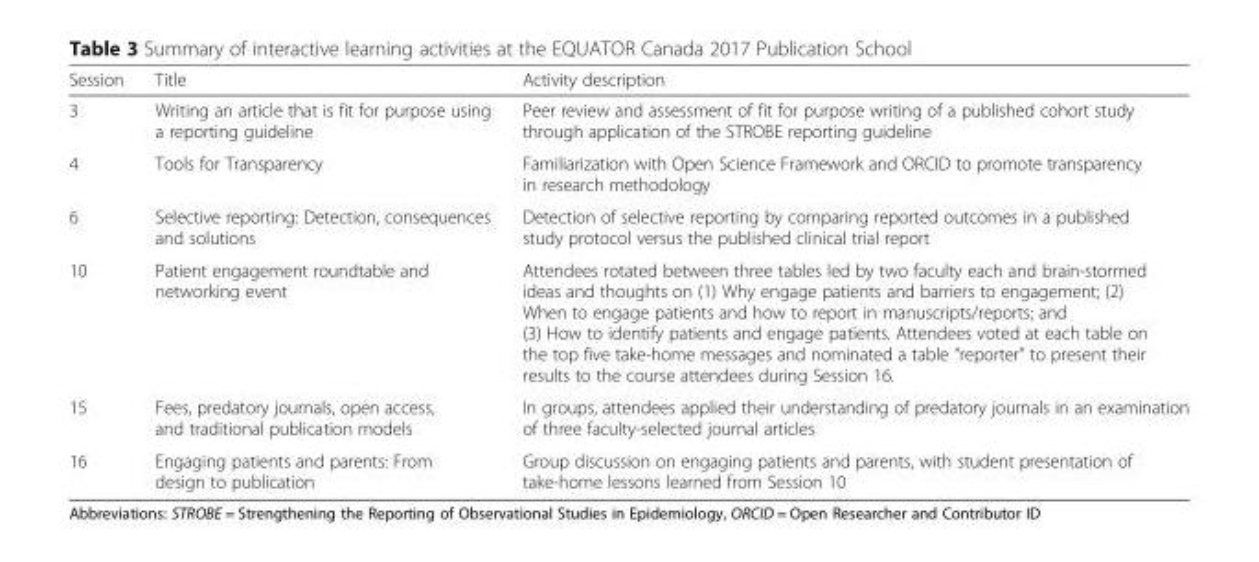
<table><thead><tr><td>Session</td><td>Title</td><td>Activity description</td></tr></thead><tbody><tr><td>3</td><td>Writing an article that is fit for purpose using a reporting guideline</td><td>Peer review and assessment of fit for purpose writing of a published cohort study through application of the STROBE reporting guideline</td></tr><tr><td>4</td><td>Tools for Transparency</td><td>Familiarization with Open Science Framework and ORCID to promote transparency in research methodology</td></tr><tr><td>6</td><td>Selective reporting: Detection, consequences and solutions</td><td>Detection of selective reporting by comparing reported outcomes in a published study protocol versus the published clinical trial report</td></tr><tr><td>10</td><td>Patient engagement roundtable and networking event</td><td>Attendees rotated between three tables led by two faculty each and brain-stormed ideas and thoughts on (1) Why engage patients and barriers to engagement; (2) When to engage patients and how to report in manuscripts/reports; and (3) How to identify patients and engage patients. Attendees voted at each table on the top five take-home messages and nominated a table “reporter” to present their results to the course attendees during Session 16.</td></tr><tr><td>15</td><td>Fees, predatory journals, open access, and traditional publication models</td><td>In groups, attendees applied their understanding of predatory journals in an examination of three faculty-selected journal articles</td></tr><tr><td>16</td><td>Engaging patients and parents: From design to publication</td><td>Group discussion on engaging patients and parents, with student presentation of take-home lessons learned from Session 10</td></tr></tbody></table>